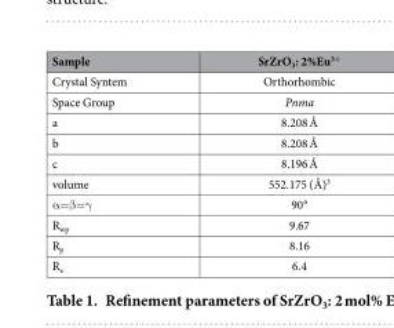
<table><thead><tr><td>Sample</td><td>SrZrO<sub>3</sub>: 2%Eu<sup>3+</sup></td></tr></thead><tbody><tr><td>Crystal Syntem</td><td>Orthorhombic</td></tr><tr><td>Space Group</td><td>Pnma</td></tr><tr><td>a</td><td>8.208 Å</td></tr><tr><td>b</td><td>8.208 Å</td></tr><tr><td>c</td><td>8.196 Å</td></tr><tr><td>volume</td><td>552.175 (Å)<sup>3</sup></td></tr><tr><td>α = β = γ</td><td>90°</td></tr><tr><td>R<sub>wp</sub></td><td>9.67</td></tr><tr><td>R<sub>p</sub></td><td>8.16</td></tr><tr><td>R<sub>e</sub></td><td>6.4</td></tr></tbody></table>